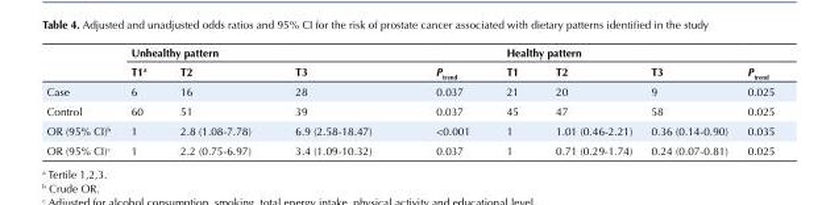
<table><thead><tr><td rowspan="2"></td><td colspan="4">Unhealthy pattern</td><td colspan="4">Healthy pattern</td></tr><tr><td>T1<sup>a</sup></td><td>T2</td><td>T3</td><td>P<sub>trend</sub></td><td>T1</td><td>T2</td><td>T3</td><td>P<sub>trend</sub></td></tr></thead><tbody><tr><td>Case</td><td>6</td><td>16</td><td>28</td><td>0.037</td><td>21</td><td>20</td><td>9</td><td>0.025</td></tr><tr><td>Control</td><td>60</td><td>51</td><td>39</td><td>0.037</td><td>45</td><td>47</td><td>58</td><td>0.025</td></tr><tr><td>OR (95% CI)<sup>b</sup></td><td>1</td><td>2.8 (1.08-7.78)</td><td>6.9 (2.58-18.47)</td><td>&lt;0.001</td><td>1</td><td>1.01 (0.46-2.21)</td><td>0.36 (0.14-0.90)</td><td>0.035</td></tr><tr><td>OR (95% CI)<sup>c</sup></td><td>1</td><td>2.2 (0.75-6.97)</td><td>3.4 (1.09-10.32)</td><td>0.037</td><td>1</td><td>0.71 (0.29-1.74)</td><td>0.24 (0.07-0.81)</td><td>0.025</td></tr></tbody></table>